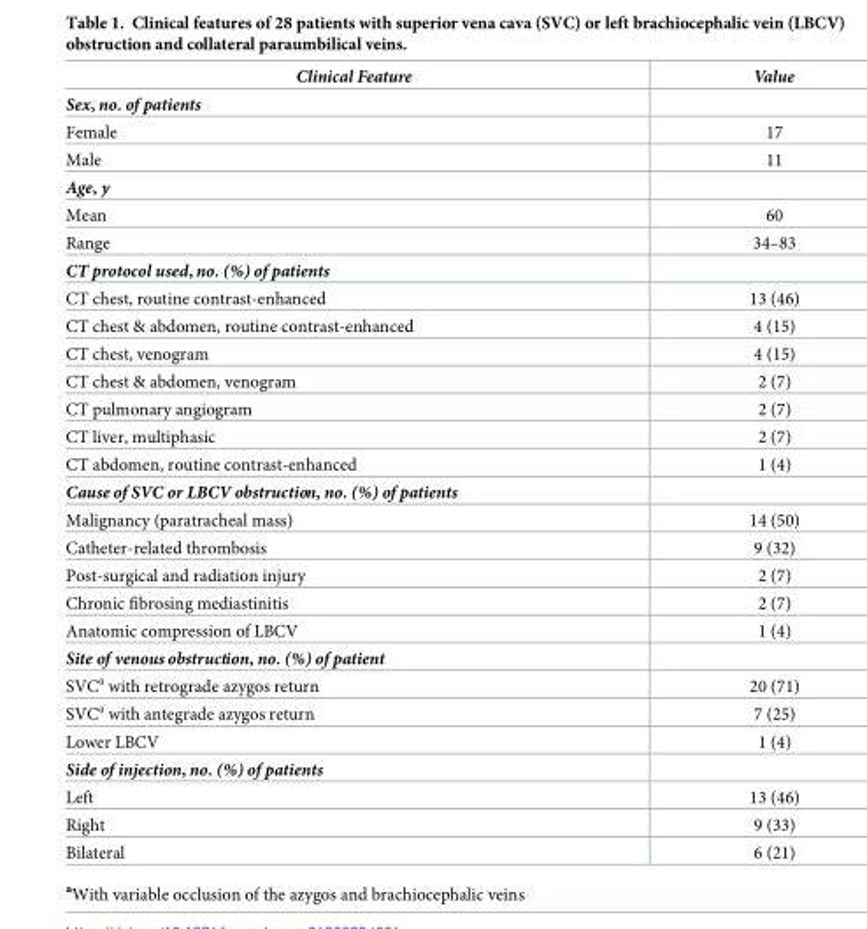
<table><thead><tr><td>Clinical Feature</td><td>Value</td></tr></thead><tbody><tr><td colspan="2">Sex, no. of patients</td></tr><tr><td>Female</td><td>17</td></tr><tr><td>Male</td><td>11</td></tr><tr><td colspan="2">Age, y</td></tr><tr><td>Mean</td><td>60</td></tr><tr><td>Range</td><td>34–83</td></tr><tr><td colspan="2">CT protocol used, no. (%) of patients</td></tr><tr><td>CT chest, routine contrast-enhanced</td><td>13 (46)</td></tr><tr><td>CT chest &amp; abdomen, routine contrast-enhanced</td><td>4 (15)</td></tr><tr><td>CT chest, venogram</td><td>4 (15)</td></tr><tr><td>CT chest &amp; abdomen, venogram</td><td>2 (7)</td></tr><tr><td>CT pulmonary angiogram</td><td>2 (7)</td></tr><tr><td>CT liver, multiphasic</td><td>2 (7)</td></tr><tr><td>CT abdomen, routine contrast-enhanced</td><td>1 (4)</td></tr><tr><td colspan="2">Cause of SVC or LBCV obstruction, no. (%) of patients</td></tr><tr><td>Malignancy (paratracheal mass)</td><td>14 (50)</td></tr><tr><td>Catheter-related thrombosis</td><td>9 (32)</td></tr><tr><td>Post-surgical and radiation injury</td><td>2 (7)</td></tr><tr><td>Chronic fibrosing mediastinitis</td><td>2 (7)</td></tr><tr><td>Anatomic compression of LBCV</td><td>1 (4)</td></tr><tr><td colspan="2">Site of venous obstruction, no. (%) of patient</td></tr><tr><td>SVC<sup>a</sup> with retrograde azygos return</td><td>20 (71)</td></tr><tr><td>SVC<sup>a</sup> with antegrade azygos return</td><td>7 (25)</td></tr><tr><td>Lower LBCV</td><td>1 (4)</td></tr><tr><td colspan="2">Side of injection, no. (%) of patients</td></tr><tr><td>Left</td><td>13 (46)</td></tr><tr><td>Right</td><td>9 (33)</td></tr><tr><td>Bilateral</td><td>6 (21)</td></tr></tbody></table>